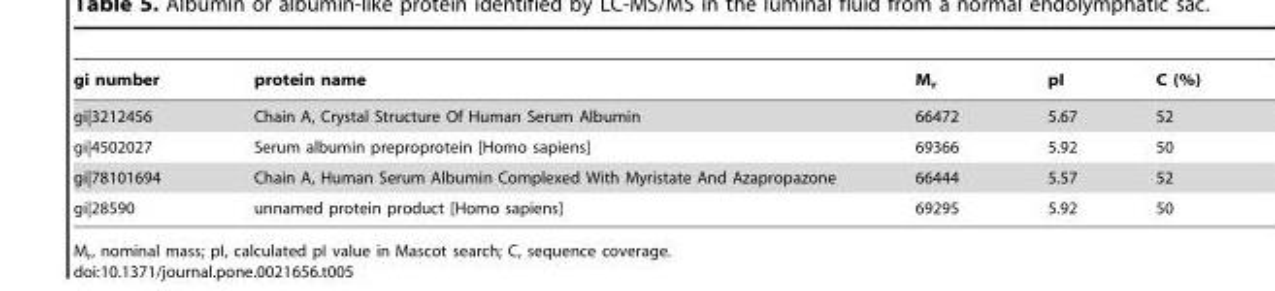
<table><thead><tr><td>gi number</td><td>protein name</td><td>M<sub>r</sub></td><td>pI</td><td>C (%)</td></tr></thead><tbody><tr><td>gi|3212456</td><td>Chain A, Crystal Structure Of Human Serum Albumin</td><td>66472</td><td>5.67</td><td>52</td></tr><tr><td>gi|4502027</td><td>Serum albumin preproprotein [Homo sapiens]</td><td>69366</td><td>5.92</td><td>50</td></tr><tr><td>gi|78101694</td><td>Chain A, Human Serum Albumin Complexed With Myristate And Azapropazone</td><td>66444</td><td>5.57</td><td>52</td></tr><tr><td>gi|28590</td><td>unnamed protein product [Homo sapiens]</td><td>69295</td><td>5.92</td><td>50</td></tr></tbody></table>